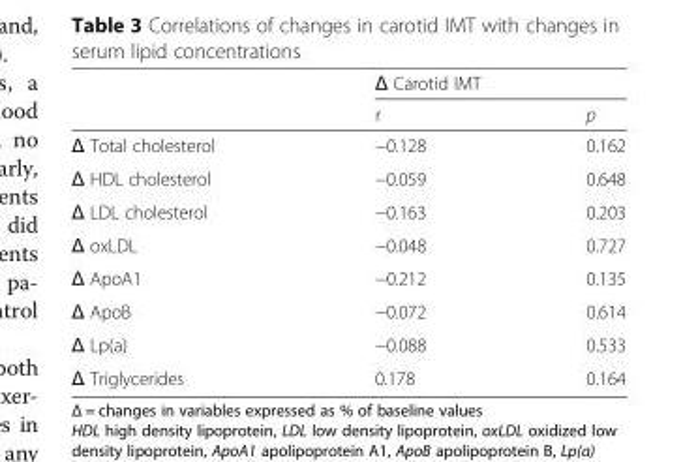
<table><thead><tr><td rowspan="2"></td><td colspan="2">Δ Carotid IMT</td></tr><tr><td>r</td><td>p</td></tr></thead><tbody><tr><td>Δ Total cholesterol</td><td>−0.128</td><td>0.162</td></tr><tr><td>Δ HDL cholesterol</td><td>−0.059</td><td>0.648</td></tr><tr><td>Δ LDL cholesterol</td><td>−0.163</td><td>0.203</td></tr><tr><td>Δ oxLDL</td><td>−0.048</td><td>0.727</td></tr><tr><td>Δ ApoA1</td><td>−0.212</td><td>0.135</td></tr><tr><td>Δ ApoB</td><td>−0.072</td><td>0.614</td></tr><tr><td>Δ Lp(a)</td><td>−0.088</td><td>0.533</td></tr><tr><td>Δ Triglycerides</td><td>0.178</td><td>0.164</td></tr></tbody></table>